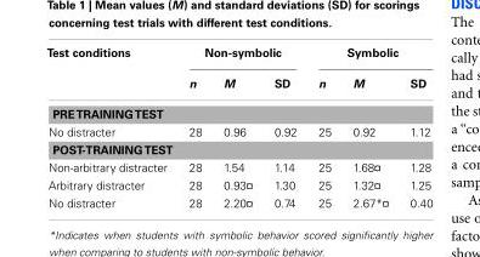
<table><thead><tr><td rowspan="2">Test conditions</td><td colspan="3">Non-symbolic</td><td colspan="3">Symbolic</td></tr><tr><td>n</td><td>M</td><td>SD</td><td>n</td><td>M</td><td>SD</td></tr></thead><tbody><tr><td colspan="7">PRETRAININGTEST</td></tr><tr><td>No distracter</td><td>28</td><td>0.96</td><td>0.92</td><td>25</td><td>0.92</td><td>1.12</td></tr><tr><td colspan="7">POST-TRAININGTEST</td></tr><tr><td>Non-arbitrary distracter</td><td>28</td><td>1.54</td><td>1.14</td><td>25</td><td>1.68¤</td><td>1.28</td></tr><tr><td>Arbitrary distracter</td><td>28</td><td>0.93¤</td><td>1.30</td><td>25</td><td>1.32¤</td><td>1.25</td></tr><tr><td>No distracter</td><td>28</td><td>2.20¤</td><td>0.74</td><td>25</td><td>2.67*¤</td><td>0.40</td></tr></tbody></table>